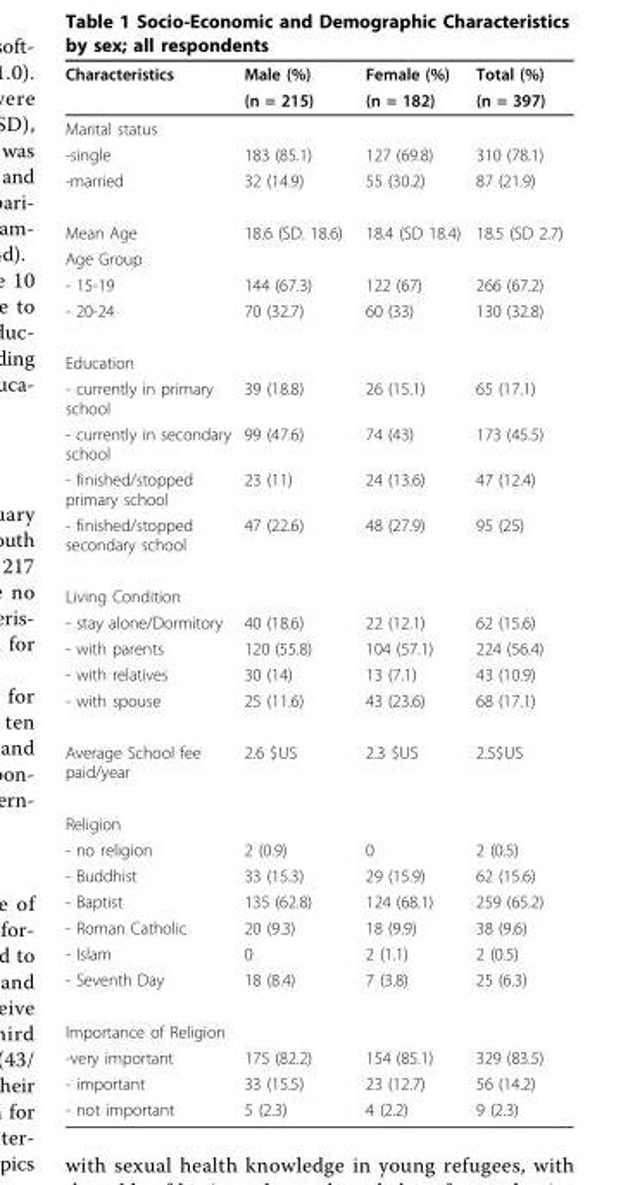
<table><thead><tr><td rowspan="2">Characteristics</td><td rowspan="2">Male (%) (n = 215)</td><td rowspan="2">Female (%) (n = 182)</td><td rowspan="2">Total (%) (n = 397)</td></tr><tr></tr></thead><tbody><tr><td colspan="4">Marital status</td></tr><tr><td>-single</td><td>183 (85.1)</td><td>127 (69.8)</td><td>310 (78.1)</td></tr><tr><td>-married</td><td>32 (14.9)</td><td>55 (30.2)</td><td>87 (21.9)</td></tr><tr><td>Mean Age</td><td>18.6 (SD. 18.6)</td><td>18.4 (SD 18.4)</td><td>18.5 (SD 2.7)</td></tr><tr><td colspan="4">Age Group</td></tr><tr><td>- 15-19</td><td>144 (67.3)</td><td>122 (67)</td><td>266 (67.2)</td></tr><tr><td>- 20-24</td><td>70 (32.7)</td><td>60 (33)</td><td>130 (32.8)</td></tr><tr><td colspan="4">Education</td></tr><tr><td>- currently in primary school</td><td>39 (18.8)</td><td>26 (15.1)</td><td>65 (17.1)</td></tr><tr><td>- currently in secondary school</td><td>99 (47.6)</td><td>74 (43)</td><td>173 (45.5)</td></tr><tr><td>- finished/stopped primary school</td><td>23 (11)</td><td>24 (13.6)</td><td>47 (12.4)</td></tr><tr><td>- finished/stopped secondary school</td><td>47 (22.6)</td><td>48 (27.9)</td><td>95 (25)</td></tr><tr><td colspan="4">Living Condition</td></tr><tr><td>- stay alone/Dormitory</td><td>40 (18.6)</td><td>22 (12.1)</td><td>62 (15.6)</td></tr><tr><td>- with parents</td><td>120 (55.8)</td><td>104 (57.1)</td><td>224 (56.4)</td></tr><tr><td>- with relatives</td><td>30 (14)</td><td>13 (7.1)</td><td>43 (10.9)</td></tr><tr><td>- with spouse</td><td>25 (11.6)</td><td>43 (23.6)</td><td>68 (17.1)</td></tr><tr><td>Average School fee paid/year</td><td>2.6 $US</td><td>2.3 $US</td><td>2.5$US</td></tr><tr><td colspan="4">Religion</td></tr><tr><td>- no religion</td><td>2 (0.9)</td><td>0</td><td>2 (0.5)</td></tr><tr><td>- Buddhist</td><td>33 (15.3)</td><td>29 (15.9)</td><td>62 (15.6)</td></tr><tr><td>- Baptist</td><td>135 (62.8)</td><td>124 (68.1)</td><td>259 (65.2)</td></tr><tr><td>- Roman Catholic</td><td>20 (9.3)</td><td>18 (9.9)</td><td>38 (9.6)</td></tr><tr><td>- Islam</td><td>0</td><td>2 (1.1)</td><td>2 (0.5)</td></tr><tr><td>- Seventh Day</td><td>18 (8.4)</td><td>7 (3.8)</td><td>25 (6.3)</td></tr><tr><td colspan="4">Importance of Religion</td></tr><tr><td>-very important</td><td>175 (82.2)</td><td>154 (85.1)</td><td>329 (83.5)</td></tr><tr><td>- important</td><td>33 (15.5)</td><td>23 (12.7)</td><td>56 (14.2)</td></tr><tr><td>- not important</td><td>5 (2.3)</td><td>4 (2.2)</td><td>9 (2.3)</td></tr></tbody></table>